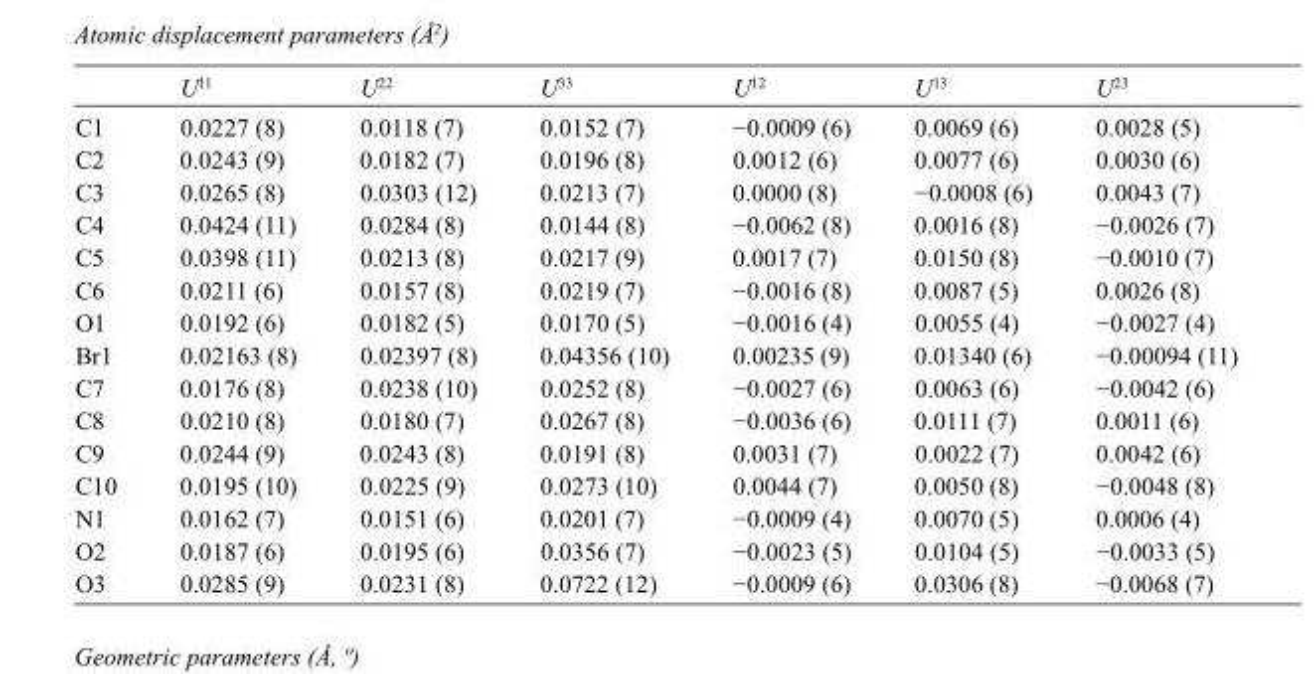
<table><thead><tr><td></td><td>U<sup>11</sup></td><td>U<sup>22</sup></td><td>U<sup>33</sup></td><td>U<sup>12</sup></td><td>U<sup>13</sup></td><td>U<sup>23</sup></td></tr></thead><tbody><tr><td>C1</td><td>0.0227 (8)</td><td>0.0118 (7)</td><td>0.0152 (7)</td><td>−0.0009 (6)</td><td>0.0069 (6)</td><td>0.0028 (5)</td></tr><tr><td>C2</td><td>0.0243 (9)</td><td>0.0182 (7)</td><td>0.0196 (8)</td><td>0.0012 (6)</td><td>0.0077 (6)</td><td>0.0030 (6)</td></tr><tr><td>C3</td><td>0.0265 (8)</td><td>0.0303 (12)</td><td>0.0213 (7)</td><td>0.0000 (8)</td><td>−0.0008 (6)</td><td>0.0043 (7)</td></tr><tr><td>C4</td><td>0.0424 (11)</td><td>0.0284 (8)</td><td>0.0144 (8)</td><td>−0.0062 (8)</td><td>0.0016 (8)</td><td>−0.0026 (7)</td></tr><tr><td>C5</td><td>0.0398 (11)</td><td>0.0213 (8)</td><td>0.0217 (9)</td><td>0.0017 (7)</td><td>0.0150 (8)</td><td>−0.0010 (7)</td></tr><tr><td>C6</td><td>0.0211 (6)</td><td>0.0157 (8)</td><td>0.0219 (7)</td><td>−0.0016 (8)</td><td>0.0087 (5)</td><td>0.0026 (8)</td></tr><tr><td>O1</td><td>0.0192 (6)</td><td>0.0182 (5)</td><td>0.0170 (5)</td><td>−0.0016 (4)</td><td>0.0055 (4)</td><td>−0.0027 (4)</td></tr><tr><td>Br1</td><td>0.02163 (8)</td><td>0.02397 (8)</td><td>0.04356 (10)</td><td>0.00235 (9)</td><td>0.01340 (6)</td><td>−0.00094 (11)</td></tr><tr><td>C7</td><td>0.0176 (8)</td><td>0.0238 (10)</td><td>0.0252 (8)</td><td>−0.0027 (6)</td><td>0.0063 (6)</td><td>−0.0042 (6)</td></tr><tr><td>C8</td><td>0.0210 (8)</td><td>0.0180 (7)</td><td>0.0267 (8)</td><td>−0.0036 (6)</td><td>0.0111 (7)</td><td>0.0011 (6)</td></tr><tr><td>C9</td><td>0.0244 (9)</td><td>0.0243 (8)</td><td>0.0191 (8)</td><td>0.0031 (7)</td><td>0.0022 (7)</td><td>0.0042 (6)</td></tr><tr><td>C10</td><td>0.0195 (10)</td><td>0.0225 (9)</td><td>0.0273 (10)</td><td>0.0044 (7)</td><td>0.0050 (8)</td><td>−0.0048 (8)</td></tr><tr><td>N1</td><td>0.0162 (7)</td><td>0.0151 (6)</td><td>0.0201 (7)</td><td>−0.0009 (4)</td><td>0.0070 (5)</td><td>0.0006 (4)</td></tr><tr><td>O2</td><td>0.0187 (6)</td><td>0.0195 (6)</td><td>0.0356 (7)</td><td>−0.0023 (5)</td><td>0.0104 (5)</td><td>−0.0033 (5)</td></tr><tr><td>O3</td><td>0.0285 (9)</td><td>0.0231 (8)</td><td>0.0722 (12)</td><td>−0.0009 (6)</td><td>0.0306 (8)</td><td>−0.0068 (7)</td></tr></tbody></table>